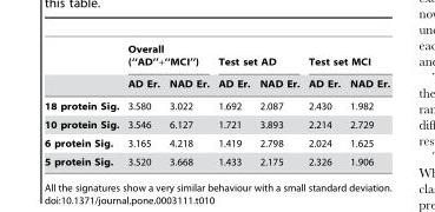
<table><thead><tr><td rowspan="2"></td><td colspan="2">Overall (‘‘AD’’+‘‘MCI’’)</td><td colspan="2">Test set AD</td><td colspan="2">Test set MCI</td></tr><tr><td>AD Er.</td><td>NAD Er.</td><td>AD Er.</td><td>NAD Er.</td><td>AD Er.</td><td>NAD Er.</td></tr></thead><tbody><tr><td>18 protein Sig.</td><td>3.580</td><td>3.022</td><td>1.692</td><td>2.087</td><td>2.430</td><td>1.982</td></tr><tr><td>10 protein Sig.</td><td>3.546</td><td>6.127</td><td>1.721</td><td>3.893</td><td>2.214</td><td>2.729</td></tr><tr><td>6 protein Sig.</td><td>3.165</td><td>4.218</td><td>1.419</td><td>2.798</td><td>2.024</td><td>1.625</td></tr><tr><td>5 protein Sig.</td><td>3.520</td><td>3.668</td><td>1.433</td><td>2.175</td><td>2.326</td><td>1.906</td></tr></tbody></table>